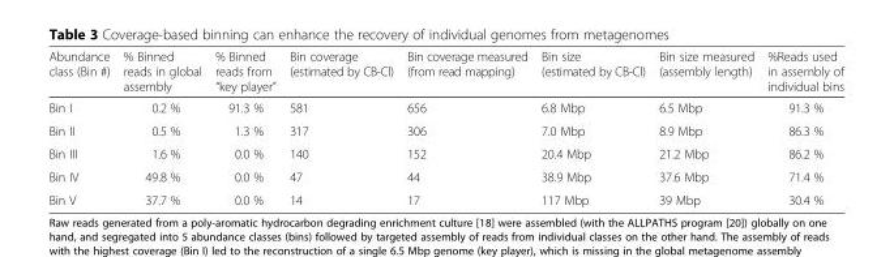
<table><thead><tr><td>Abundance class (Bin #)</td><td>% Binned reads in global assembly</td><td>% Binned reads from “key player”</td><td>Bin coverage (estimated by CB-Cl)</td><td>Bin coverage measured (from read mapping)</td><td>Bin size (estimated by CB-Cl)</td><td>Bin size measured (assembly length)</td><td>%Reads used in assembly of individual bins</td></tr></thead><tbody><tr><td>Bin I</td><td>0.2 %</td><td>91.3 %</td><td>581</td><td>656</td><td>6.8 Mbp</td><td>6.5 Mbp</td><td>91.3 %</td></tr><tr><td>Bin II</td><td>0.5 %</td><td>1.3 %</td><td>317</td><td>306</td><td>7.0 Mbp</td><td>8.9 Mbp</td><td>86.3 %</td></tr><tr><td>Bin III</td><td>1.6 %</td><td>0.0 %</td><td>140</td><td>152</td><td>20.4 Mbp</td><td>21.2 Mbp</td><td>86.2 %</td></tr><tr><td>Bin IV</td><td>49.8 %</td><td>0.0 %</td><td>47</td><td>44</td><td>38.9 Mbp</td><td>37.6 Mbp</td><td>71.4 %</td></tr><tr><td>Bin V</td><td>37.7 %</td><td>0.0 %</td><td>14</td><td>17</td><td>117 Mbp</td><td>39 Mbp</td><td>30.4 %</td></tr></tbody></table>